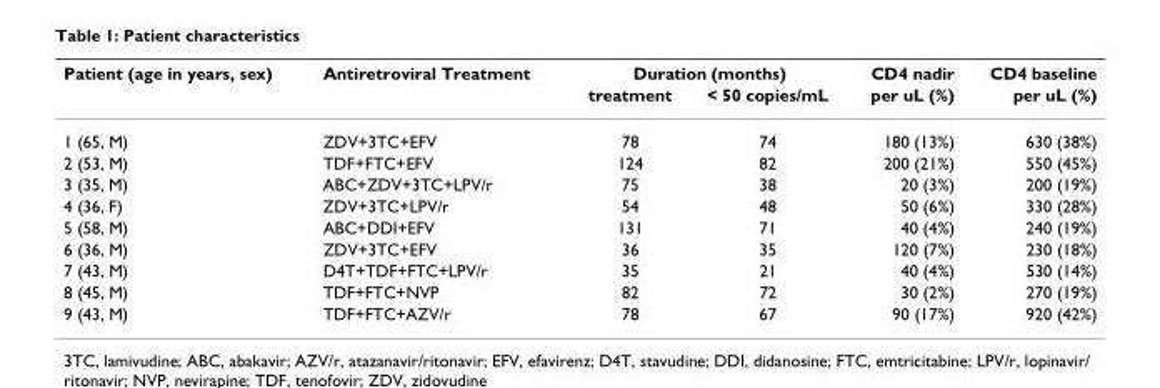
<table><thead><tr><td rowspan="2">Patient (age in years, sex)</td><td rowspan="2">Antiretroviral Treatment</td><td colspan="2">Duration (months)</td><td rowspan="2">CD4 nadir per uL (%)</td><td rowspan="2">CD4 baseline per uL (%)</td></tr><tr><td>treatment</td><td>&lt; 50 copies/mL</td></tr></thead><tbody><tr><td>1 (65, M)</td><td>ZDV+3TC+EFV</td><td>78</td><td>74</td><td>180 (13%)</td><td>630 (38%)</td></tr><tr><td>2 (53, M)</td><td>TDF+FTC+EFV</td><td>124</td><td>82</td><td>200 (21%)</td><td>550 (45%)</td></tr><tr><td>3 (35, M)</td><td>ABC+ZDV+3TC+LPV/r</td><td>75</td><td>38</td><td>20 (3%)</td><td>200 (19%)</td></tr><tr><td>4 (36, F)</td><td>ZDV+3TC+LPV/r</td><td>54</td><td>48</td><td>50 (6%)</td><td>330 (28%)</td></tr><tr><td>5 (58, M)</td><td>ABC+DDI+EFV</td><td>131</td><td>71</td><td>40 (4%)</td><td>240 (19%)</td></tr><tr><td>6 (36, M)</td><td>ZDV+3TC+EFV</td><td>36</td><td>35</td><td>120 (7%)</td><td>230 (18%)</td></tr><tr><td>7 (43, M)</td><td>D4T+TDF+FTC+LPV/r</td><td>35</td><td>21</td><td>40 (4%)</td><td>530 (14%)</td></tr><tr><td>8 (45, M)</td><td>TDF+FTC+NVP</td><td>82</td><td>72</td><td>30 (2%)</td><td>270 (19%)</td></tr><tr><td>9 (43, M)</td><td>TDF+FTC+AZV/r</td><td>78</td><td>67</td><td>90 (17%)</td><td>920 (42%)</td></tr></tbody></table>